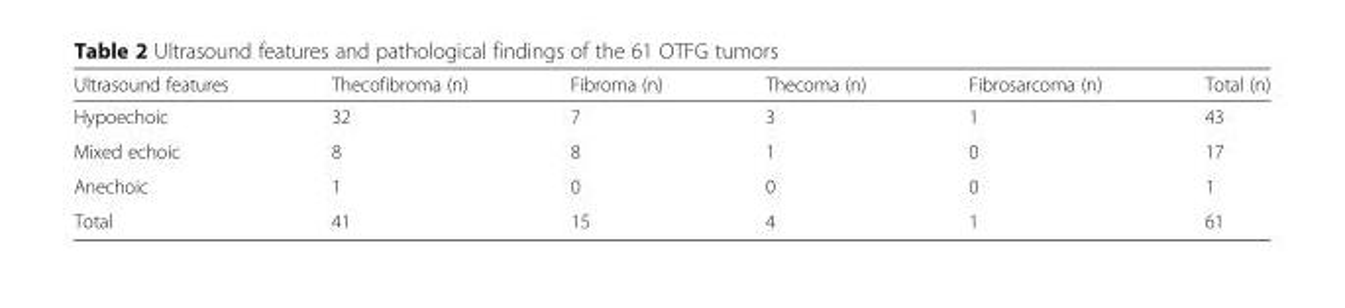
<table><thead><tr><td>Ultrasound features</td><td>Thecofibroma (n)</td><td>Fibroma (n)</td><td>Thecoma (n)</td><td>Fibrosarcoma (n)</td><td>Total (n)</td></tr></thead><tbody><tr><td>Hypoechoic</td><td>32</td><td>7</td><td>3</td><td>1</td><td>43</td></tr><tr><td>Mixed echoic</td><td>8</td><td>8</td><td>1</td><td>0</td><td>17</td></tr><tr><td>Anechoic</td><td>1</td><td>0</td><td>0</td><td>0</td><td>1</td></tr><tr><td>Total</td><td>41</td><td>15</td><td>4</td><td>1</td><td>61</td></tr></tbody></table>